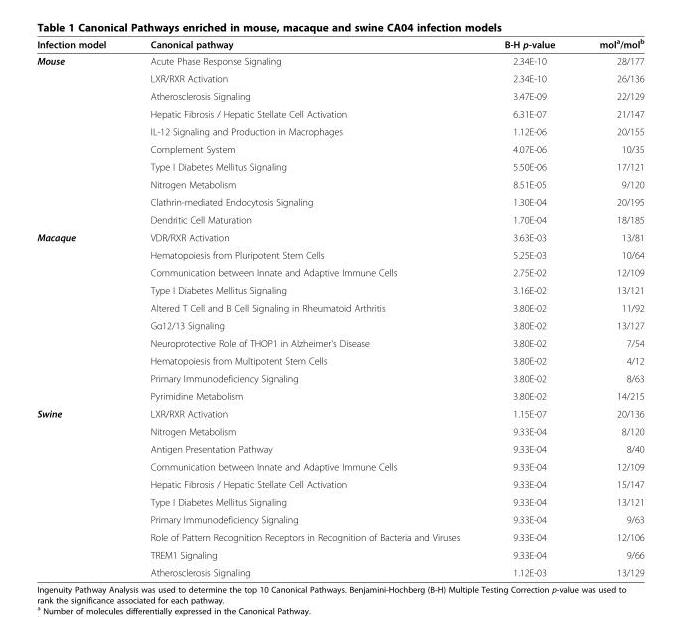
<table><thead><tr><td>Infection model</td><td>Canonical pathway</td><td>B-H p-value</td><td>mol<sup>a</sup>/mol<sup>b</sup></td></tr></thead><tbody><tr><td rowspan="10">Mouse</td><td>Acute Phase Response Signaling</td><td>2.34E-10</td><td>28/177</td></tr><tr><td>LXR/RXR Activation</td><td>2.34E-10</td><td>26/136</td></tr><tr><td>Atherosclerosis Signaling</td><td>3.47E-09</td><td>22/129</td></tr><tr><td>Hepatic Fibrosis / Hepatic Stellate Cell Activation</td><td>6.31E-07</td><td>21/147</td></tr><tr><td>IL-12 Signaling and Production in Macrophages</td><td>1.12E-06</td><td>20/155</td></tr><tr><td>Complement System</td><td>4.07E-06</td><td>10/35</td></tr><tr><td>Type I Diabetes Mellitus Signaling</td><td>5.50E-06</td><td>17/121</td></tr><tr><td>Nitrogen Metabolism</td><td>8.51E-05</td><td>9/120</td></tr><tr><td>Clathrin-mediated Endocytosis Signaling</td><td>1.30E-04</td><td>20/195</td></tr><tr><td>Dendritic Cell Maturation</td><td>1.70E-04</td><td>18/185</td></tr><tr><td rowspan="10">Macaque</td><td>VDR/RXR Activation</td><td>3.63E-03</td><td>13/81</td></tr><tr><td>Hematopoiesis from Pluripotent Stem Cells</td><td>5.25E-03</td><td>10/64</td></tr><tr><td>Communication between Innate and Adaptive Immune Cells</td><td>2.75E-02</td><td>12/109</td></tr><tr><td>Type I Diabetes Mellitus Signaling</td><td>3.16E-02</td><td>13/121</td></tr><tr><td>Altered T Cell and B Cell Signaling in Rheumatoid Arthritis</td><td>3.80E-02</td><td>11/92</td></tr><tr><td>Gα12/13 Signaling</td><td>3.80E-02</td><td>13/127</td></tr><tr><td>Neuroprotective Role of THOP1 in Alzheimer&#x27;s Disease</td><td>3.80E-02</td><td>7/54</td></tr><tr><td>Hematopoiesis from Multipotent Stem Cells</td><td>3.80E-02</td><td>4/12</td></tr><tr><td>Primary Immunodeficiency Signaling</td><td>3.80E-02</td><td>8/63</td></tr><tr><td>Pyrimidine Metabolism</td><td>3.80E-02</td><td>14/215</td></tr><tr><td rowspan="10">Swine</td><td>LXR/RXR Activation</td><td>1.15E-07</td><td>20/136</td></tr><tr><td>Nitrogen Metabolism</td><td>9.33E-04</td><td>8/120</td></tr><tr><td>Antigen Presentation Pathway</td><td>9.33E-04</td><td>8/40</td></tr><tr><td>Communication between Innate and Adaptive Immune Cells</td><td>9.33E-04</td><td>12/109</td></tr><tr><td>Hepatic Fibrosis / Hepatic Stellate Cell Activation</td><td>9.33E-04</td><td>15/147</td></tr><tr><td>Type I Diabetes Mellitus Signaling</td><td>9.33E-04</td><td>13/121</td></tr><tr><td>Primary Immunodeficiency Signaling</td><td>9.33E-04</td><td>9/63</td></tr><tr><td>Role of Pattern Recognition Receptors in Recognition of Bacteria and Viruses</td><td>9.33E-04</td><td>12/106</td></tr><tr><td>TREM1 Signaling</td><td>9.33E-04</td><td>9/66</td></tr><tr><td>Atherosclerosis Signaling</td><td>1.12E-03</td><td>13/129</td></tr></tbody></table>